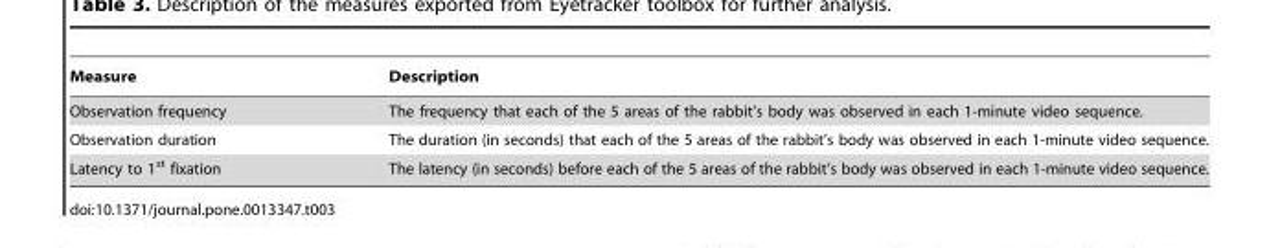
<table><thead><tr><td>Measure</td><td>Description</td></tr></thead><tbody><tr><td>Observation frequency</td><td>The frequency that each of the 5 areas of the rabbit’s body was observed in each 1-minute video sequence.</td></tr><tr><td>Observation duration</td><td>The duration (in seconds) that each of the 5 areas of the rabbit’s body was observed in each 1-minute video sequence.</td></tr><tr><td>Latency to 1<sup>st</sup> fixation</td><td>The latency (in seconds) before each of the 5 areas of the rabbit’s body was observed in each 1-minute video sequence.</td></tr></tbody></table>